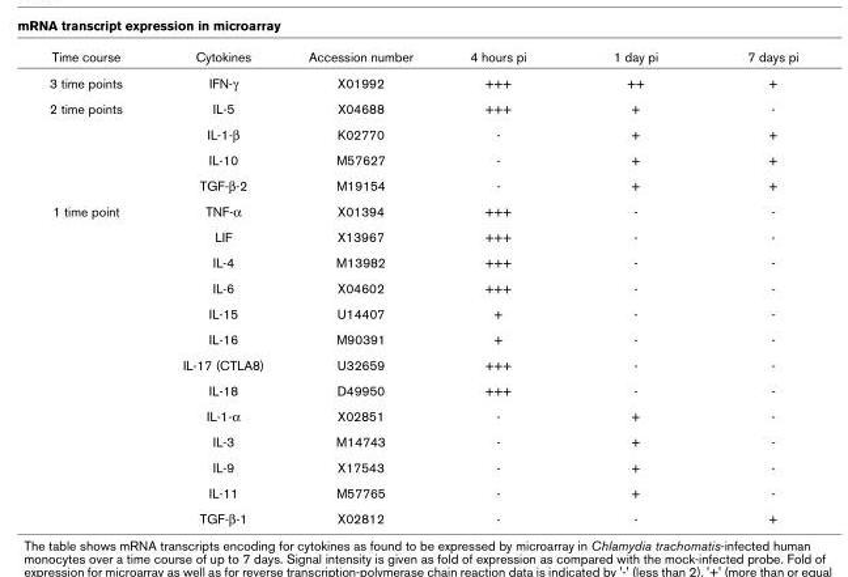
<table><thead><tr><td>Time course</td><td>Cytokines</td><td>Accession number</td><td>4 hours pi</td><td>1 day pi</td><td>7 days pi</td></tr></thead><tbody><tr><td>3 time points</td><td>IFN-γ</td><td>X01992</td><td>+++</td><td>++</td><td>+</td></tr><tr><td rowspan="4">2 time points</td><td>IL-5</td><td>X04688</td><td>+++</td><td>+</td><td>-</td></tr><tr><td>IL-1-β</td><td>K02770</td><td>-</td><td>+</td><td>+</td></tr><tr><td>IL-10</td><td>M57627</td><td>-</td><td>+</td><td>+</td></tr><tr><td>TGF-β-2</td><td>M19154</td><td>-</td><td>+</td><td>+</td></tr><tr><td rowspan="13">1 time point</td><td>TNF-α</td><td>X01394</td><td>+++</td><td>-</td><td>-</td></tr><tr><td>LIF</td><td>X13967</td><td>+++</td><td>-</td><td>-</td></tr><tr><td>IL-4</td><td>M13982</td><td>+++</td><td>-</td><td>-</td></tr><tr><td>IL-6</td><td>X04602</td><td>+++</td><td>-</td><td>-</td></tr><tr><td>IL-15</td><td>U14407</td><td>+</td><td>-</td><td>-</td></tr><tr><td>IL-16</td><td>M90391</td><td>+</td><td>-</td><td>-</td></tr><tr><td>IL-17 (CTLA8)</td><td>U32659</td><td>+++</td><td>-</td><td>-</td></tr><tr><td>IL-18</td><td>D49950</td><td>+++</td><td>-</td><td>-</td></tr><tr><td>IL-1-α</td><td>X02851</td><td>-</td><td>+</td><td>-</td></tr><tr><td>IL-3</td><td>M14743</td><td>-</td><td>+</td><td>-</td></tr><tr><td>IL-9</td><td>X17543</td><td>-</td><td>+</td><td>-</td></tr><tr><td>IL-11</td><td>M57765</td><td>-</td><td>+</td><td>-</td></tr><tr><td>TGF-β-1</td><td>X02812</td><td>-</td><td>-</td><td>+</td></tr></tbody></table>